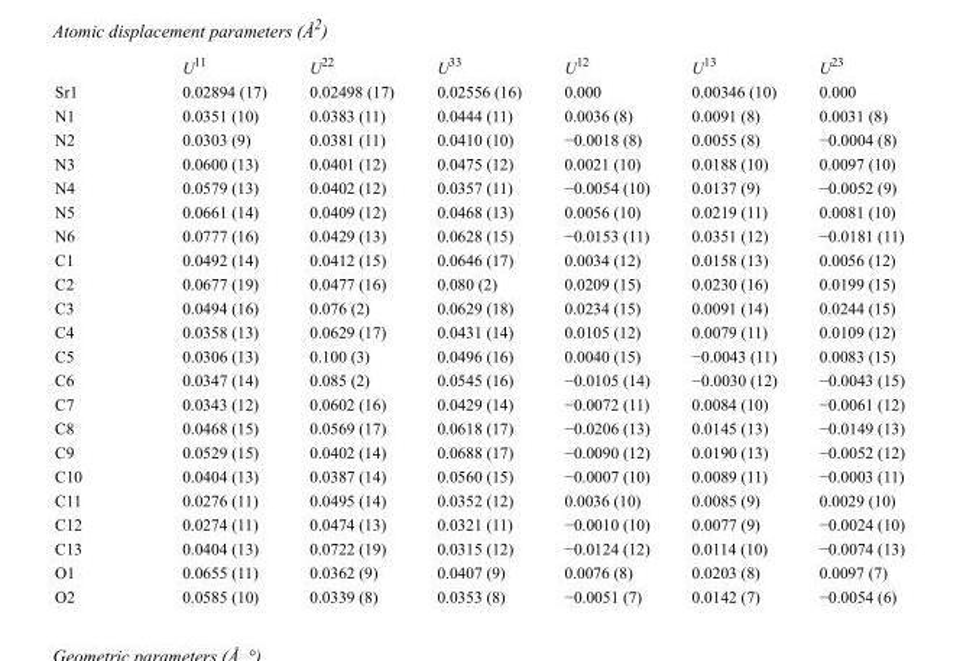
<table><thead><tr><td></td><td>U<sup>11</sup></td><td>U<sup>22</sup></td><td>U<sup>33</sup></td><td>U<sup>12</sup></td><td>U<sup>13</sup></td><td>U<sup>23</sup></td></tr></thead><tbody><tr><td>Sr1</td><td>0.02894 (17)</td><td>0.02498 (17)</td><td>0.02556 (16)</td><td>0.000</td><td>0.00346 (10)</td><td>0.000</td></tr><tr><td>N1</td><td>0.0351 (10)</td><td>0.0383 (11)</td><td>0.0444 (11)</td><td>0.0036 (8)</td><td>0.0091 (8)</td><td>0.0031 (8)</td></tr><tr><td>N2</td><td>0.0303 (9)</td><td>0.0381 (11)</td><td>0.0410 (10)</td><td>−0.0018 (8)</td><td>0.0055 (8)</td><td>−0.0004 (8)</td></tr><tr><td>N3</td><td>0.0600 (13)</td><td>0.0401 (12)</td><td>0.0475 (12)</td><td>0.0021 (10)</td><td>0.0188 (10)</td><td>0.0097 (10)</td></tr><tr><td>N4</td><td>0.0579 (13)</td><td>0.0402 (12)</td><td>0.0357 (11)</td><td>−0.0054 (10)</td><td>0.0137 (9)</td><td>−0.0052 (9)</td></tr><tr><td>N5</td><td>0.0661 (14)</td><td>0.0409 (12)</td><td>0.0468 (13)</td><td>0.0056 (10)</td><td>0.0219 (11)</td><td>0.0081 (10)</td></tr><tr><td>N6</td><td>0.0777 (16)</td><td>0.0429 (13)</td><td>0.0628 (15)</td><td>−0.0153 (11)</td><td>0.0351 (12)</td><td>−0.0181 (11)</td></tr><tr><td>C1</td><td>0.0492 (14)</td><td>0.0412 (15)</td><td>0.0646 (17)</td><td>0.0034 (12)</td><td>0.0158 (13)</td><td>0.0056 (12)</td></tr><tr><td>C2</td><td>0.0677 (19)</td><td>0.0477 (16)</td><td>0.080 (2)</td><td>0.0209 (15)</td><td>0.0230 (16)</td><td>0.0199 (15)</td></tr><tr><td>C3</td><td>0.0494 (16)</td><td>0.076 (2)</td><td>0.0629 (18)</td><td>0.0234 (15)</td><td>0.0091 (14)</td><td>0.0244 (15)</td></tr><tr><td>C4</td><td>0.0358 (13)</td><td>0.0629 (17)</td><td>0.0431 (14)</td><td>0.0105 (12)</td><td>0.0079 (11)</td><td>0.0109 (12)</td></tr><tr><td>C5</td><td>0.0306 (13)</td><td>0.100 (3)</td><td>0.0496 (16)</td><td>0.0040 (15)</td><td>−0.0043 (11)</td><td>0.0083 (15)</td></tr><tr><td>C6</td><td>0.0347 (14)</td><td>0.085 (2)</td><td>0.0545 (16)</td><td>−0.0105 (14)</td><td>−0.0030 (12)</td><td>−0.0043 (15)</td></tr><tr><td>C7</td><td>0.0343 (12)</td><td>0.0602 (16)</td><td>0.0429 (14)</td><td>−0.0072 (11)</td><td>0.0084 (10)</td><td>−0.0061 (12)</td></tr><tr><td>C8</td><td>0.0468 (15)</td><td>0.0569 (17)</td><td>0.0618 (17)</td><td>−0.0206 (13)</td><td>0.0145 (13)</td><td>−0.0149 (13)</td></tr><tr><td>C9</td><td>0.0529 (15)</td><td>0.0402 (14)</td><td>0.0688 (17)</td><td>−0.0090 (12)</td><td>0.0190 (13)</td><td>−0.0052 (12)</td></tr><tr><td>C10</td><td>0.0404 (13)</td><td>0.0387 (14)</td><td>0.0560 (15)</td><td>−0.0007 (10)</td><td>0.0089 (11)</td><td>−0.0003 (11)</td></tr><tr><td>C11</td><td>0.0276 (11)</td><td>0.0495 (14)</td><td>0.0352 (12)</td><td>0.0036 (10)</td><td>0.0085 (9)</td><td>0.0029 (10)</td></tr><tr><td>C12</td><td>0.0274 (11)</td><td>0.0474 (13)</td><td>0.0321 (11)</td><td>−0.0010 (10)</td><td>0.0077 (9)</td><td>−0.0024 (10)</td></tr><tr><td>C13</td><td>0.0404 (13)</td><td>0.0722 (19)</td><td>0.0315 (12)</td><td>−0.0124 (12)</td><td>0.0114 (10)</td><td>−0.0074 (13)</td></tr><tr><td>O1</td><td>0.0655 (11)</td><td>0.0362 (9)</td><td>0.0407 (9)</td><td>0.0076 (8)</td><td>0.0203 (8)</td><td>0.0097 (7)</td></tr><tr><td>O2</td><td>0.0585 (10)</td><td>0.0339 (8)</td><td>0.0353 (8)</td><td>−0.0051 (7)</td><td>0.0142 (7)</td><td>−0.0054 (6)</td></tr></tbody></table>